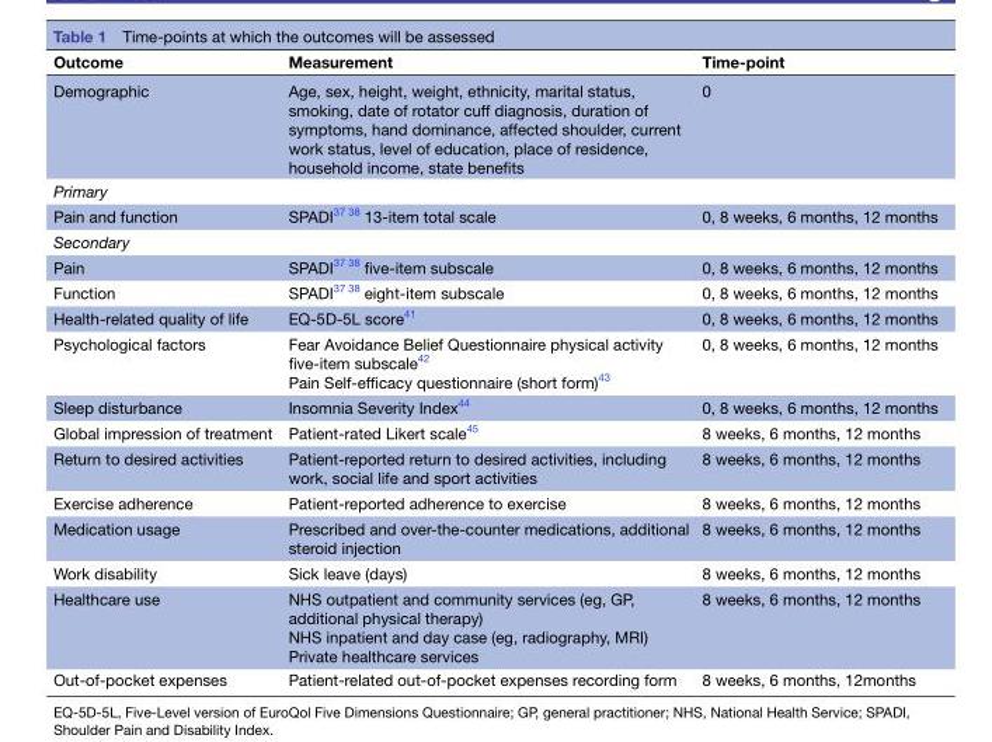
<table><thead><tr><td>Outcome</td><td>Measurement</td><td>Time-point</td></tr></thead><tbody><tr><td>Demographic</td><td>Age, sex, height, weight, ethnicity, marital status, smoking, date of rotator cuff diagnosis, duration of symptoms, hand dominance, affected shoulder, current work status, level of education, place of residence, household income, state benefits</td><td>0</td></tr><tr><td colspan="3">Primary</td></tr><tr><td>Pain and function</td><td>SPADI<sup>37 38</sup> 13-item total scale</td><td>0, 8 weeks, 6 months, 12 months</td></tr><tr><td colspan="3">Secondary</td></tr><tr><td>Pain</td><td>SPADI<sup>37 38</sup> five-item subscale</td><td>0, 8 weeks, 6 months, 12 months</td></tr><tr><td>Function</td><td>SPADI<sup>37 38</sup> eight-item subscale</td><td>0, 8 weeks, 6 months, 12 months</td></tr><tr><td>Health-related quality of life</td><td>EQ-5D-5L score<sup>41</sup></td><td>0, 8 weeks, 6 months, 12 months</td></tr><tr><td>Psychological factors</td><td>Fear Avoidance Belief Questionnaire physical activity five-item subscale<sup>42</sup> Pain Self-efficacy questionnaire (short form)<sup>43</sup></td><td>0, 8 weeks, 6 months, 12 months</td></tr><tr><td>Sleep disturbance</td><td>Insomnia Severity Index<sup>44</sup></td><td>0, 8 weeks, 6 months, 12 months</td></tr><tr><td>Global impression of treatment</td><td>Patient-rated Likert scale<sup>45</sup></td><td>8 weeks, 6 months, 12 months</td></tr><tr><td>Return to desired activities</td><td>Patient-reported return to desired activities, including work, social life and sport activities</td><td>8 weeks, 6 months, 12 months</td></tr><tr><td>Exercise adherence</td><td>Patient-reported adherence to exercise</td><td>8 weeks, 6 months, 12 months</td></tr><tr><td>Medication usage</td><td>Prescribed and over-the-counter medications, additional steroid injection</td><td>8 weeks, 6 months, 12 months</td></tr><tr><td>Work disability</td><td>Sick leave (days)</td><td>8 weeks, 6 months, 12 months</td></tr><tr><td>Healthcare use</td><td>NHS outpatient and community services (eg, GP, additional physical therapy) NHS inpatient and day case (eg, radiography, MRI) Private healthcare services</td><td>8 weeks, 6 months, 12 months</td></tr><tr><td>Out-of-pocket expenses</td><td>Patient-related out-of-pocket expenses recording form</td><td>8 weeks, 6 months, 12months</td></tr></tbody></table>